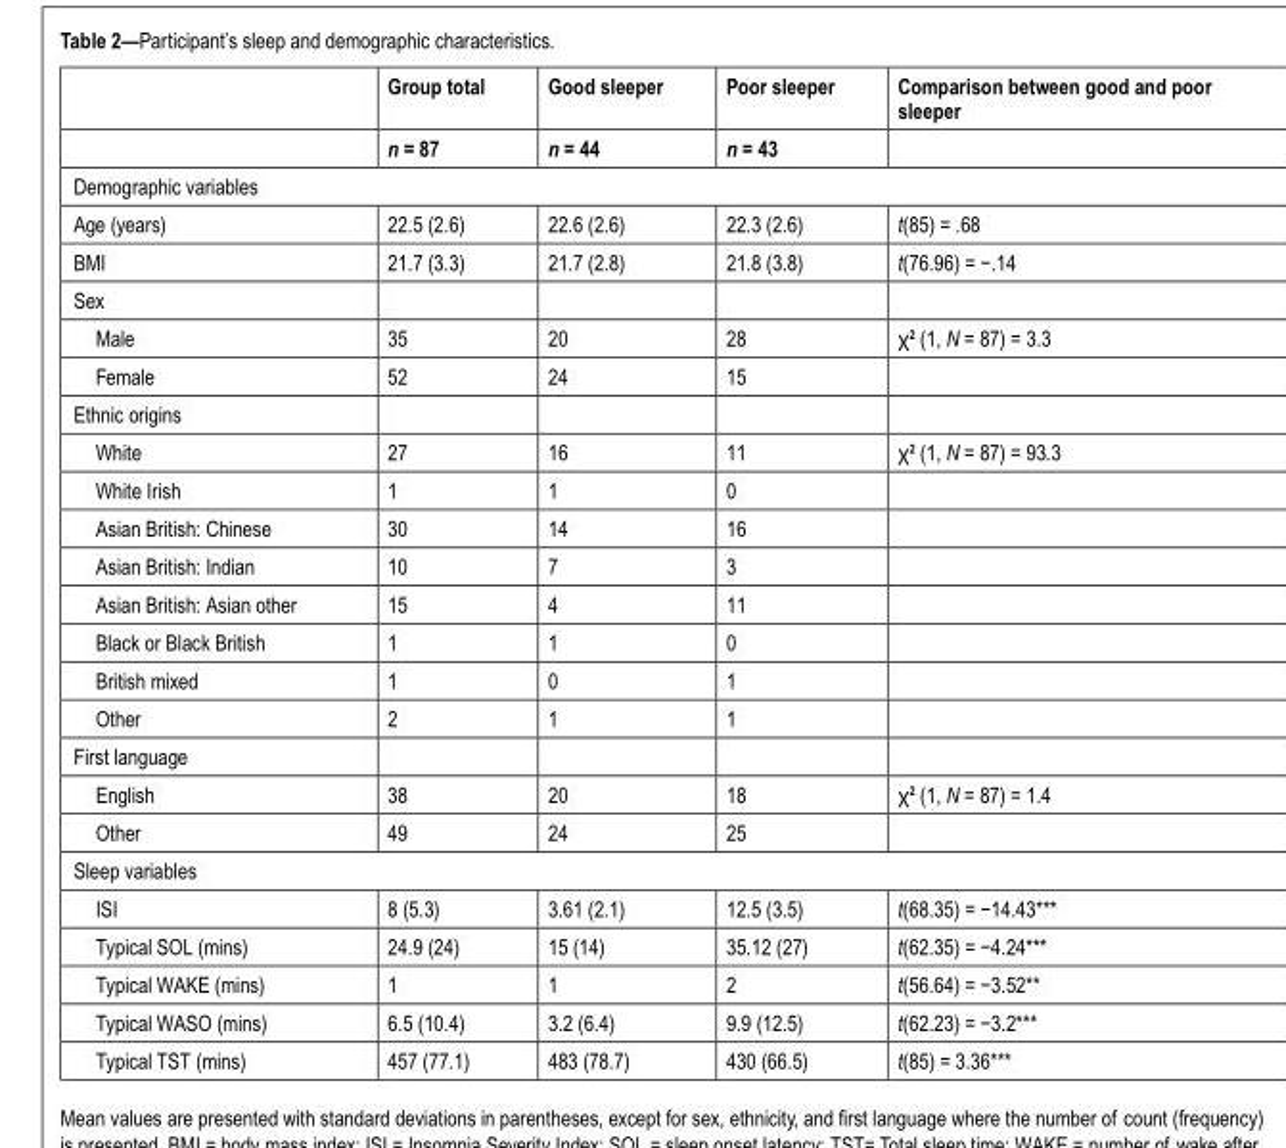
<table><thead><tr><td rowspan="2"></td><td rowspan="2">Group total n = 87</td><td rowspan="2">Good sleeper n = 44</td><td rowspan="2">Poor sleeper n = 43</td><td rowspan="2">Comparison between good and poor sleeper</td></tr><tr></tr></thead><tbody><tr><td colspan="5">Demographic variables</td></tr><tr><td>Age (years)</td><td>22.5 (2.6)</td><td>22.6 (2.6)</td><td>22.3 (2.6)</td><td>t(85) = .68</td></tr><tr><td>BMI</td><td>21.7 (3.3)</td><td>21.7 (2.8)</td><td>21.8 (3.8)</td><td>t(76.96) = −.14</td></tr><tr><td colspan="5">Sex</td></tr><tr><td>Male</td><td>35</td><td>20</td><td>28</td><td>χ<sup>2</sup> (1, N = 87) = 3.3</td></tr><tr><td>Female</td><td>52</td><td>24</td><td>15</td><td></td></tr><tr><td colspan="5">Ethnic origins</td></tr><tr><td>White</td><td>27</td><td>16</td><td>11</td><td>χ<sup>2</sup> (1, N = 87) = 93.3</td></tr><tr><td>White Irish</td><td>1</td><td>1</td><td>0</td><td></td></tr><tr><td>Asian British: Chinese</td><td>30</td><td>14</td><td>16</td><td></td></tr><tr><td>Asian British: Indian</td><td>10</td><td>7</td><td>3</td><td></td></tr><tr><td>Asian British: Asian other</td><td>15</td><td>4</td><td>11</td><td></td></tr><tr><td>Black or Black British</td><td>1</td><td>1</td><td>0</td><td></td></tr><tr><td>British mixed</td><td>1</td><td>0</td><td>1</td><td></td></tr><tr><td>Other</td><td>2</td><td>1</td><td>1</td><td></td></tr><tr><td colspan="5">First language</td></tr><tr><td>English</td><td>38</td><td>20</td><td>18</td><td>χ<sup>2</sup> (1, N = 87) = 1.4</td></tr><tr><td>Other</td><td>49</td><td>24</td><td>25</td><td></td></tr><tr><td colspan="5">Sleep variables</td></tr><tr><td>ISI</td><td>8 (5.3)</td><td>3.61 (2.1)</td><td>12.5 (3.5)</td><td>t(68.35) = −14.43***</td></tr><tr><td>Typical SOL (mins)</td><td>24.9 (24)</td><td>15 (14)</td><td>35.12 (27)</td><td>t(62.35) = −4.24***</td></tr><tr><td>Typical WAKE (mins)</td><td>1</td><td>1</td><td>2</td><td>t(56.64) = −3.52**</td></tr><tr><td>Typical WASO (mins)</td><td>6.5 (10.4)</td><td>3.2 (6.4)</td><td>9.9 (12.5)</td><td>t(62.23) = −3.2***</td></tr><tr><td>Typical TST (mins)</td><td>457 (77.1)</td><td>483 (78.7)</td><td>430 (66.5)</td><td>t(85) = 3.36***</td></tr></tbody></table>